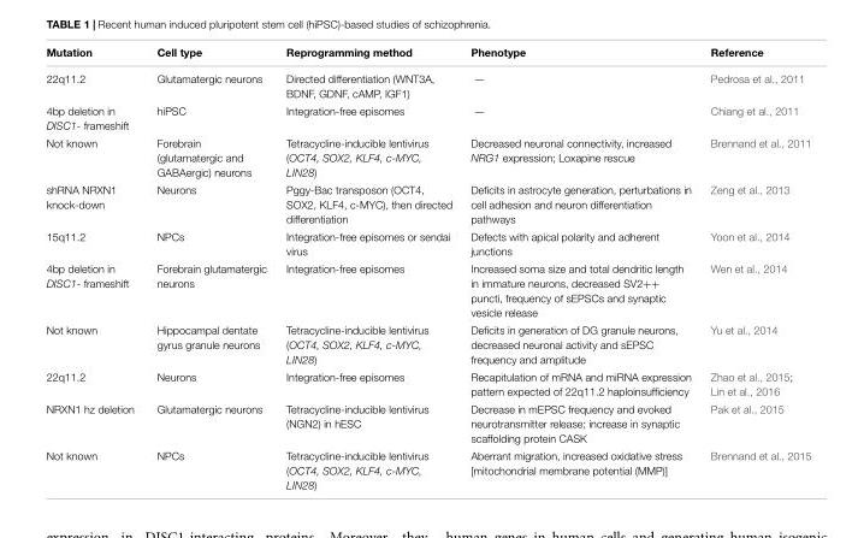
<table><thead><tr><td>Mutation</td><td>Cell type</td><td>Reprogramming method</td><td>Phenotype</td><td>Reference</td></tr></thead><tbody><tr><td>22q11.2</td><td>Glutamatergic neurons</td><td>Directed differentiation (WNT3A, BDNF, GDNF, cAMP, IGF1)</td><td>—</td><td>Pedrosa et al., 2011</td></tr><tr><td>4bp deletion in DISC1- frameshift</td><td>hiPSC</td><td>Integration-free episomes</td><td>—</td><td>Chiang et al., 2011</td></tr><tr><td>Not known</td><td>Forebrain (glutamatergic and GABAergic) neurons</td><td>Tetracycline-inducible lentivirus (OCT4, SOX2, KLF4, c-MYC, LIN28)</td><td>Decreased neuronal connectivity, increased NRG1 expression; Loxapine rescue</td><td>Brennand et al., 2011</td></tr><tr><td>shRNA NRXN1 knock-down</td><td>Neurons</td><td>Pggy-Bac transposon (OCT4, SOX2, KLF4, c-MYC), then directed differentiation</td><td>Deficits in astrocyte generation, perturbations in cell adhesion and neuron differentiation pathways</td><td>Zeng et al., 2013</td></tr><tr><td>15q11.2</td><td>NPCs</td><td>Integration-free episomes or sendai virus</td><td>Defects with apical polarity and adherent junctions</td><td>Yoon et al., 2014</td></tr><tr><td>4bp deletion in DISC1- frameshift</td><td>Forebrain glutamatergic neurons</td><td>Integration-free episomes</td><td>Increased soma size and total dendritic length in immature neurons, decreased SV2++ puncti, frequency of sEPSCs and synaptic vesicle release</td><td>Wen et al., 2014</td></tr><tr><td>Not known</td><td>Hippocampal dentate gyrus granule neurons</td><td>Tetracycline-inducible lentivirus (OCT4, SOX2, KLF4, c-MYC, LIN28)</td><td>Deficits in generation of DG granule neurons, decreased neuronal activity and sEPSC frequency and amplitude</td><td>Yu et al., 2014</td></tr><tr><td>22q11.2</td><td>Neurons</td><td>Integration-free episomes</td><td>Recapitulation of mRNA and miRNA expression pattern expected of 22q11.2 haploinsufficiency</td><td>Zhao et al., 2015; Lin et al., 2016</td></tr><tr><td>NRXN1 hz deletion</td><td>Glutamatergic neurons</td><td>Tetracycline-inducible lentivirus (NGN2) in hESC</td><td>Decrease in mEPSC frequency and evoked neurotransmitter release; increase in synaptic scaffolding protein CASK</td><td>Pak et al., 2015</td></tr><tr><td>Not known</td><td>NPCs</td><td>Tetracycline-inducible lentivirus (OCT4, SOX2, KLF4, c-MYC, LIN28)</td><td>Aberrant migration, increased oxidative stress [mitochondrial membrane potential (MMP)]</td><td>Brennand et al., 2015</td></tr></tbody></table>